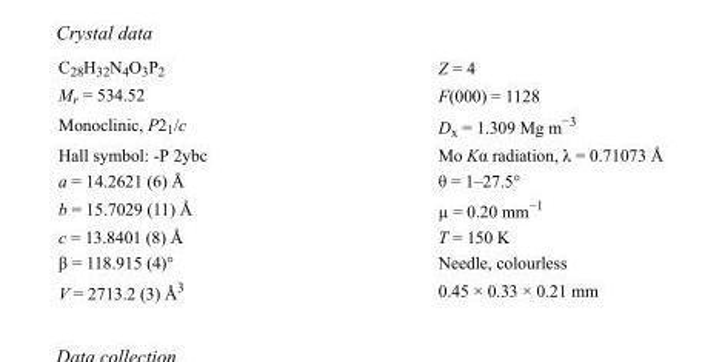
<table><tbody><tr><td>C<sub>28</sub>H<sub>32</sub>N<sub>4</sub>O<sub>3</sub>P<sub>2</sub></td><td>Z = 4</td></tr><tr><td>M<sub>r</sub> = 534.52</td><td>F(000) = 1128</td></tr><tr><td>Monoclinic, P2<sub>1</sub>/c</td><td>D<sub>x</sub> = 1.309 Mg m<sup>−3</sup></td></tr><tr><td>Hall symbol: -P 2ybc</td><td>Mo Kα radiation, λ = 0.71073 Å</td></tr><tr><td>a = 14.2621 (6) Å</td><td>θ = 1–27.5°</td></tr><tr><td>b = 15.7029 (11) Å</td><td>µ = 0.20 mm<sup>−1</sup></td></tr><tr><td>c = 13.8401 (8) Å</td><td>T = 150 K</td></tr><tr><td>β = 118.915 (4)°</td><td>Needle, colourless</td></tr><tr><td>V = 2713.2 (3) Å<sup>3</sup></td><td>0.45 × 0.33 × 0.21 mm</td></tr></tbody></table>